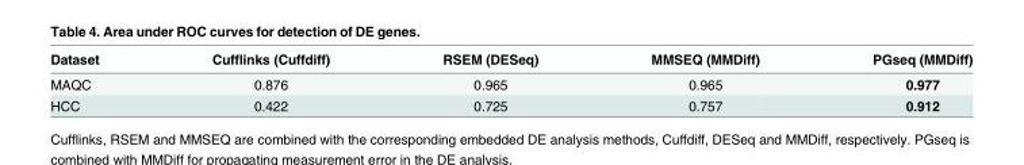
<table><thead><tr><td>Dataset</td><td>Cufflinks (Cuffdiff)</td><td>RSEM (DESeq)</td><td>MMSEQ (MMDiff)</td><td>PGseq (MMDiff)</td></tr></thead><tbody><tr><td>MAQC</td><td>0.876</td><td>0.965</td><td>0.965</td><td>0.977</td></tr><tr><td>HCC</td><td>0.422</td><td>0.725</td><td>0.757</td><td>0.912</td></tr></tbody></table>